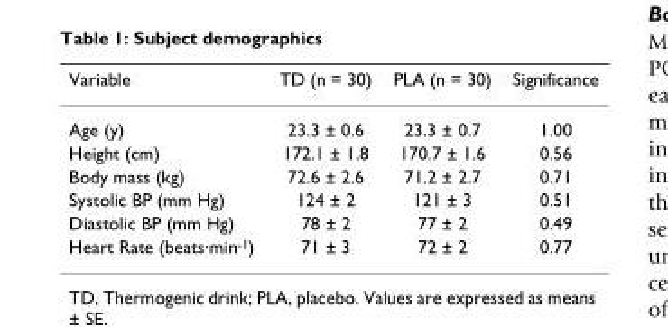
<table><thead><tr><td>Variable</td><td>TD (n = 30)</td><td>PLA (n = 30)</td><td>Significance</td></tr></thead><tbody><tr><td>Age (y)</td><td>23.3 ± 0.6</td><td>23.3 ± 0.7</td><td>1.00</td></tr><tr><td>Height (cm)</td><td>172.1 ± 1.8</td><td>170.7 ± 1.6</td><td>0.56</td></tr><tr><td>Body mass (kg)</td><td>72.6 ± 2.6</td><td>71.2 ± 2.7</td><td>0.71</td></tr><tr><td>Systolic BP (mm Hg)</td><td>124 ± 2</td><td>121 ± 3</td><td>0.51</td></tr><tr><td>Diastolic BP (mm Hg)</td><td>78 ± 2</td><td>77 ± 2</td><td>0.49</td></tr><tr><td>Heart Rate (beats·min<sup>-1</sup>)</td><td>71 ± 3</td><td>72 ± 2</td><td>0.77</td></tr></tbody></table>